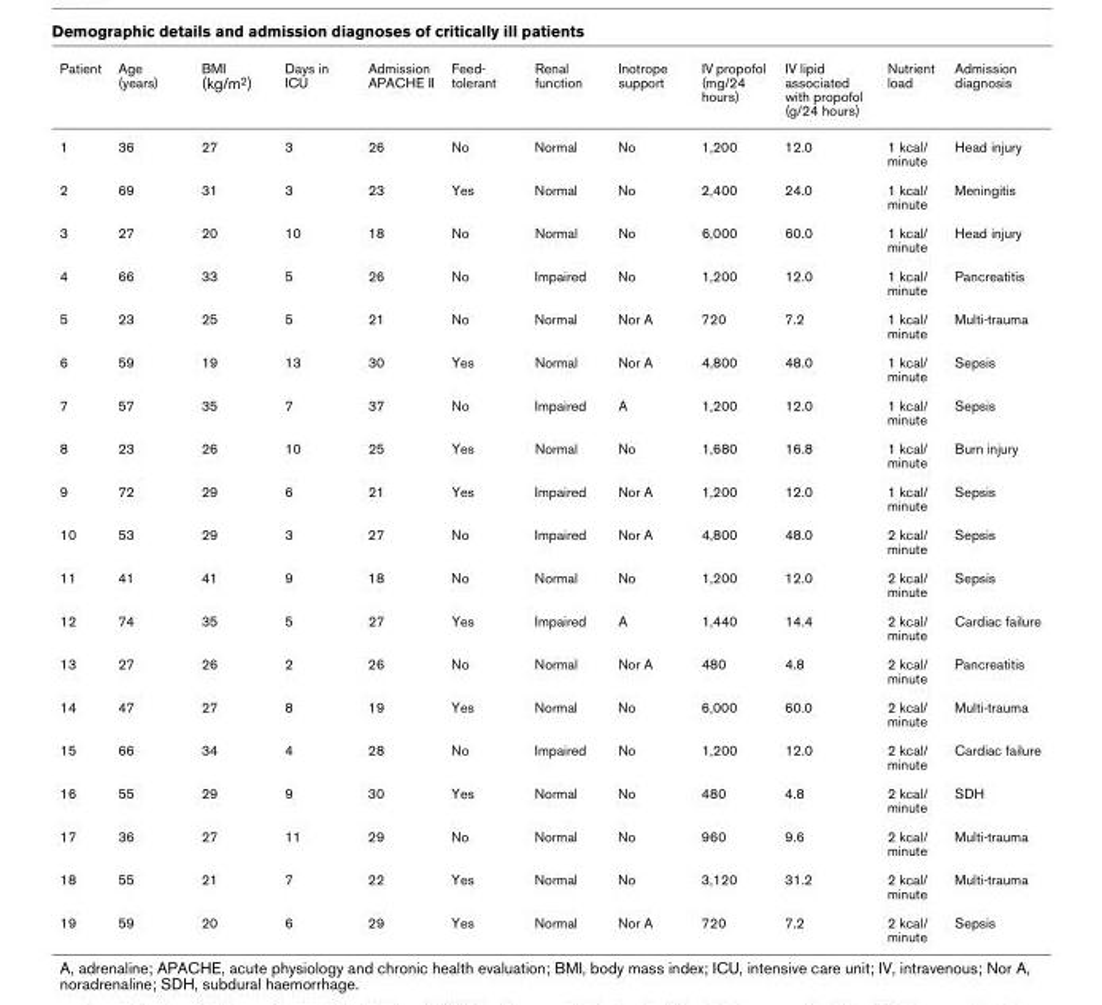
<table><thead><tr><td>Patient</td><td>Age (years)</td><td>BMI (kg/m2)</td><td>Days in ICU</td><td>Admission APACHE II</td><td>Feed- tolerant</td><td>Renal function</td><td>Inotrope support</td><td>IV propofol (mg/24 hours)</td><td>IV lipid associated with propofol (g/24 hours)</td><td>Nutrient load</td><td>Admission diagnosis</td></tr></thead><tbody><tr><td>1</td><td>36</td><td>27</td><td>3</td><td>26</td><td>No</td><td>Normal</td><td>No</td><td>1,200</td><td>12.0</td><td>1 kcal/ minute</td><td>Head injury</td></tr><tr><td>2</td><td>69</td><td>31</td><td>3</td><td>23</td><td>Yes</td><td>Normal</td><td>No</td><td>2,400</td><td>24.0</td><td>1 kcal/ minute</td><td>Meningitis</td></tr><tr><td>3</td><td>27</td><td>20</td><td>10</td><td>18</td><td>No</td><td>Normal</td><td>No</td><td>6,000</td><td>60.0</td><td>1 kcal/ minute</td><td>Head injury</td></tr><tr><td>4</td><td>66</td><td>33</td><td>5</td><td>26</td><td>No</td><td>Impaired</td><td>No</td><td>1,200</td><td>12.0</td><td>1 kcal/ minute</td><td>Pancreatitis</td></tr><tr><td>5</td><td>23</td><td>25</td><td>5</td><td>21</td><td>No</td><td>Normal</td><td>Nor A</td><td>720</td><td>7.2</td><td>1 kcal/ minute</td><td>Multi-trauma</td></tr><tr><td>6</td><td>59</td><td>19</td><td>13</td><td>30</td><td>Yes</td><td>Normal</td><td>Nor A</td><td>4,800</td><td>48.0</td><td>1 kcal/ minute</td><td>Sepsis</td></tr><tr><td>7</td><td>57</td><td>35</td><td>7</td><td>37</td><td>No</td><td>Impaired</td><td>A</td><td>1,200</td><td>12.0</td><td>1 kcal/ minute</td><td>Sepsis</td></tr><tr><td>8</td><td>23</td><td>26</td><td>10</td><td>25</td><td>Yes</td><td>Normal</td><td>No</td><td>1,680</td><td>16.8</td><td>1 kcal/ minute</td><td>Burn injury</td></tr><tr><td>9</td><td>72</td><td>29</td><td>6</td><td>21</td><td>Yes</td><td>Impaired</td><td>Nor A</td><td>1,200</td><td>12.0</td><td>1 kcal/ minute</td><td>Sepsis</td></tr><tr><td>10</td><td>53</td><td>29</td><td>3</td><td>27</td><td>No</td><td>Impaired</td><td>Nor A</td><td>4,800</td><td>48.0</td><td>2 kcal/ minute</td><td>Sepsis</td></tr><tr><td>11</td><td>41</td><td>41</td><td>9</td><td>18</td><td>No</td><td>Normal</td><td>No</td><td>1,200</td><td>12.0</td><td>2 kcal/ minute</td><td>Sepsis</td></tr><tr><td>12</td><td>74</td><td>35</td><td>5</td><td>27</td><td>Yes</td><td>Impaired</td><td>A</td><td>1,440</td><td>14.4</td><td>2 kcal/ minute</td><td>Cardiac failure</td></tr><tr><td>13</td><td>27</td><td>26</td><td>2</td><td>26</td><td>No</td><td>Normal</td><td>Nor A</td><td>480</td><td>4.8</td><td>2 kcal/ minute</td><td>Pancreatitis</td></tr><tr><td>14</td><td>47</td><td>27</td><td>8</td><td>19</td><td>Yes</td><td>Normal</td><td>No</td><td>6,000</td><td>60.0</td><td>2 kcal/ minute</td><td>Multi-trauma</td></tr><tr><td>15</td><td>66</td><td>34</td><td>4</td><td>28</td><td>No</td><td>Impaired</td><td>No</td><td>1,200</td><td>12.0</td><td>2 kcal/ minute</td><td>Cardiac failure</td></tr><tr><td>16</td><td>55</td><td>29</td><td>9</td><td>30</td><td>Yes</td><td>Normal</td><td>No</td><td>480</td><td>4.8</td><td>2 kcal/ minute</td><td>SDH</td></tr><tr><td>17</td><td>36</td><td>27</td><td>11</td><td>29</td><td>No</td><td>Normal</td><td>No</td><td>960</td><td>9.6</td><td>2 kcal/ minute</td><td>Multi-trauma</td></tr><tr><td>18</td><td>55</td><td>21</td><td>7</td><td>22</td><td>Yes</td><td>Normal</td><td>No</td><td>3,120</td><td>31.2</td><td>2 kcal/ minute</td><td>Multi-trauma</td></tr><tr><td>19</td><td>59</td><td>20</td><td>6</td><td>29</td><td>Yes</td><td>Normal</td><td>Nor A</td><td>720</td><td>7.2</td><td>2 kcal/ minute</td><td>Sepsis</td></tr></tbody></table>